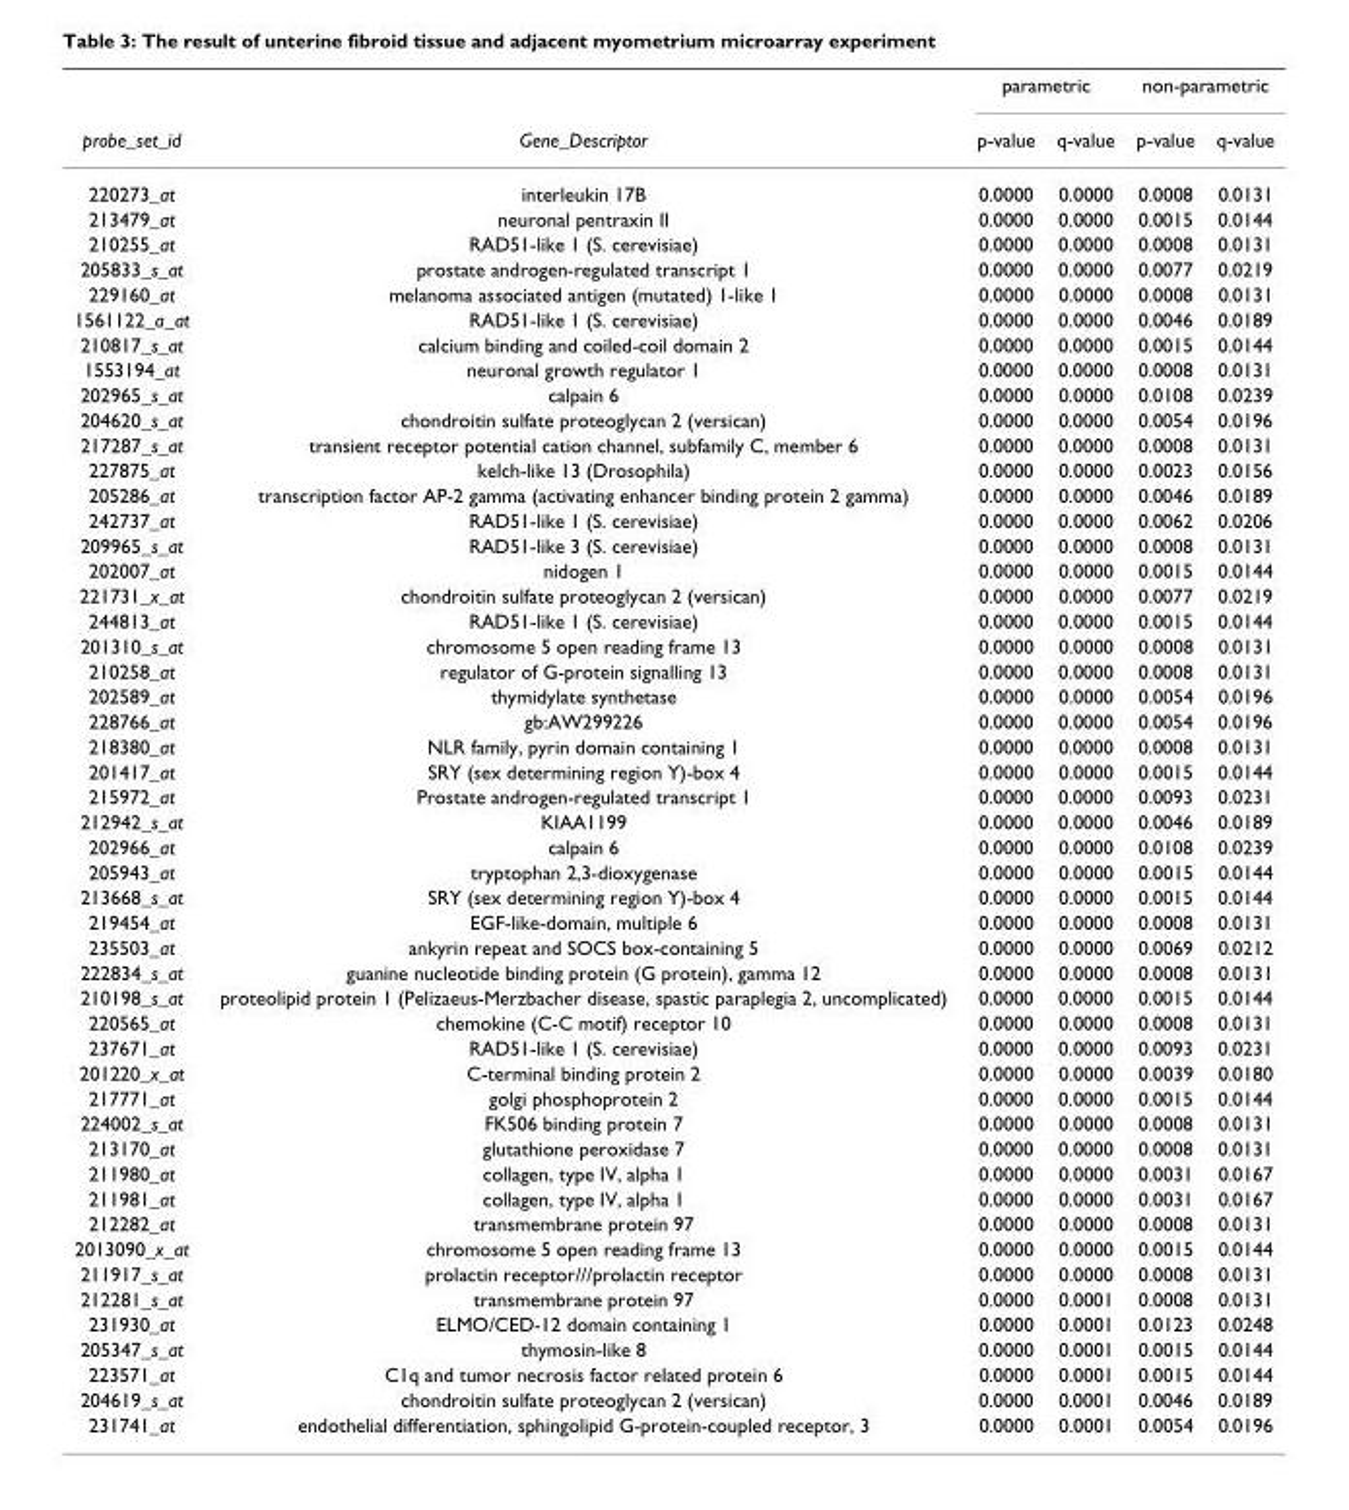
<table><thead><tr><td rowspan="2">probe_set_id</td><td rowspan="2">Gene_Descriptor</td><td colspan="2">parametric</td><td colspan="2">non-parametric</td></tr><tr><td>p-value</td><td>q-value</td><td>p-value</td><td>q-value</td></tr></thead><tbody><tr><td>220273_at</td><td>interleukin 17B</td><td>0.0000</td><td>0.0000</td><td>0.0008</td><td>0.0131</td></tr><tr><td>213479_at</td><td>neuronal pentraxin II</td><td>0.0000</td><td>0.0000</td><td>0.0015</td><td>0.0144</td></tr><tr><td>210255_at</td><td>RAD51-like 1 (S. cerevisiae)</td><td>0.0000</td><td>0.0000</td><td>0.0008</td><td>0.0131</td></tr><tr><td>205833_s_at</td><td>prostate androgen-regulated transcript 1</td><td>0.0000</td><td>0.0000</td><td>0.0077</td><td>0.0219</td></tr><tr><td>229160_at</td><td>melanoma associated antigen (mutated) 1-like 1</td><td>0.0000</td><td>0.0000</td><td>0.0008</td><td>0.0131</td></tr><tr><td>1561122_a_at</td><td>RAD51-like 1 (S. cerevisiae)</td><td>0.0000</td><td>0.0000</td><td>0.0046</td><td>0.0189</td></tr><tr><td>210817_s_at</td><td>calcium binding and coiled-coil domain 2</td><td>0.0000</td><td>0.0000</td><td>0.0015</td><td>0.0144</td></tr><tr><td>1553194_at</td><td>neuronal growth regulator 1</td><td>0.0000</td><td>0.0000</td><td>0.0008</td><td>0.0131</td></tr><tr><td>202965_s_at</td><td>calpain 6</td><td>0.0000</td><td>0.0000</td><td>0.0108</td><td>0.0239</td></tr><tr><td>204620_s_at</td><td>chondroitin sulfate proteoglycan 2 (versican)</td><td>0.0000</td><td>0.0000</td><td>0.0054</td><td>0.0196</td></tr><tr><td>217287_s_at</td><td>transient receptor potential cation channel, subfamily C, member 6</td><td>0.0000</td><td>0.0000</td><td>0.0008</td><td>0.0131</td></tr><tr><td>227875_at</td><td>kelch-like 13 (Drosophila)</td><td>0.0000</td><td>0.0000</td><td>0.0023</td><td>0.0156</td></tr><tr><td>205286_at</td><td>transcription factor AP-2 gamma (activating enhancer binding protein 2 gamma)</td><td>0.0000</td><td>0.0000</td><td>0.0046</td><td>0.0189</td></tr><tr><td>242737_at</td><td>RAD51-like 1 (S. cerevisiae)</td><td>0.0000</td><td>0.0000</td><td>0.0062</td><td>0.0206</td></tr><tr><td>209965_s_at</td><td>RAD51-like 3 (S. cerevisiae)</td><td>0.0000</td><td>0.0000</td><td>0.0008</td><td>0.0131</td></tr><tr><td>202007_at</td><td>nidogen 1</td><td>0.0000</td><td>0.0000</td><td>0.0015</td><td>0.0144</td></tr><tr><td>221731_x_at</td><td>chondroitin sulfate proteoglycan 2 (versican)</td><td>0.0000</td><td>0.0000</td><td>0.0077</td><td>0.0219</td></tr><tr><td>244813_at</td><td>RAD51-like 1 (S. cerevisiae)</td><td>0.0000</td><td>0.0000</td><td>0.0015</td><td>0.0144</td></tr><tr><td>201310_s_at</td><td>chromosome 5 open reading frame 13</td><td>0.0000</td><td>0.0000</td><td>0.0008</td><td>0.0131</td></tr><tr><td>210258_at</td><td>regulator of G-protein signalling 13</td><td>0.0000</td><td>0.0000</td><td>0.0008</td><td>0.0131</td></tr><tr><td>202589_at</td><td>thymidylate synthetase</td><td>0.0000</td><td>0.0000</td><td>0.0054</td><td>0.0196</td></tr><tr><td>228766_at</td><td>gb:AW299226</td><td>0.0000</td><td>0.0000</td><td>0.0054</td><td>0.0196</td></tr><tr><td>218380_at</td><td>NLR family, pyrin domain containing 1</td><td>0.0000</td><td>0.0000</td><td>0.0008</td><td>0.0131</td></tr><tr><td>201417_at</td><td>SRY (sex determining region Y)-box 4</td><td>0.0000</td><td>0.0000</td><td>0.0015</td><td>0.0144</td></tr><tr><td>215972_at</td><td>Prostate androgen-regulated transcript 1</td><td>0.0000</td><td>0.0000</td><td>0.0093</td><td>0.0231</td></tr><tr><td>212942_s_at</td><td>KIAA1199</td><td>0.0000</td><td>0.0000</td><td>0.0046</td><td>0.0189</td></tr><tr><td>202966_at</td><td>calpain 6</td><td>0.0000</td><td>0.0000</td><td>0.0108</td><td>0.0239</td></tr><tr><td>205943_at</td><td>tryptophan 2,3-dioxygenase</td><td>0.0000</td><td>0.0000</td><td>0.0015</td><td>0.0144</td></tr><tr><td>213668_s_at</td><td>SRY (sex determining region Y)-box 4</td><td>0.0000</td><td>0.0000</td><td>0.0015</td><td>0.0144</td></tr><tr><td>219454_at</td><td>EGF-like-domain, multiple 6</td><td>0.0000</td><td>0.0000</td><td>0.0008</td><td>0.0131</td></tr><tr><td>235503_at</td><td>ankyrin repeat and SOCS box-containing 5</td><td>0.0000</td><td>0.0000</td><td>0.0069</td><td>0.0212</td></tr><tr><td>222834_s_at</td><td>guanine nucleotide binding protein (G protein), gamma 12</td><td>0.0000</td><td>0.0000</td><td>0.0008</td><td>0.0131</td></tr><tr><td>210198_s_at</td><td>proteolipid protein 1 (Pelizaeus-Merzbacher disease, spastic paraplegia 2, uncomplicated)</td><td>0.0000</td><td>0.0000</td><td>0.0015</td><td>0.0144</td></tr><tr><td>220565_at</td><td>chemokine (C-C motif) receptor 10</td><td>0.0000</td><td>0.0000</td><td>0.0008</td><td>0.0131</td></tr><tr><td>237671_at</td><td>RAD51-like 1 (S. cerevisiae)</td><td>0.0000</td><td>0.0000</td><td>0.0093</td><td>0.0231</td></tr><tr><td>201220_x_at</td><td>C-terminal binding protein 2</td><td>0.0000</td><td>0.0000</td><td>0.0039</td><td>0.0180</td></tr><tr><td>217771_at</td><td>golgi phosphoprotein 2</td><td>0.0000</td><td>0.0000</td><td>0.0015</td><td>0.0144</td></tr><tr><td>224002_s_at</td><td>FK506 binding protein 7</td><td>0.0000</td><td>0.0000</td><td>0.0008</td><td>0.0131</td></tr><tr><td>213170_at</td><td>glutathione peroxidase 7</td><td>0.0000</td><td>0.0000</td><td>0.0008</td><td>0.0131</td></tr><tr><td>211980_at</td><td>collagen, type IV, alpha 1</td><td>0.0000</td><td>0.0000</td><td>0.0031</td><td>0.0167</td></tr><tr><td>211981_at</td><td>collagen, type IV, alpha 1</td><td>0.0000</td><td>0.0000</td><td>0.0031</td><td>0.0167</td></tr><tr><td>212282_at</td><td>transmembrane protein 97</td><td>0.0000</td><td>0.0000</td><td>0.0008</td><td>0.0131</td></tr><tr><td>2013090_x_at</td><td>chromosome 5 open reading frame 13</td><td>0.0000</td><td>0.0000</td><td>0.0015</td><td>0.0144</td></tr><tr><td>211917_s_at</td><td>prolactin receptor///prolactin receptor</td><td>0.0000</td><td>0.0000</td><td>0.0008</td><td>0.0131</td></tr><tr><td>212281_s_at</td><td>transmembrane protein 97</td><td>0.0000</td><td>0.0001</td><td>0.0008</td><td>0.0131</td></tr><tr><td>231930_at</td><td>ELMO/CED-12 domain containing 1</td><td>0.0000</td><td>0.0001</td><td>0.0123</td><td>0.0248</td></tr><tr><td>205347_s_at</td><td>thymosin-like 8</td><td>0.0000</td><td>0.0001</td><td>0.0015</td><td>0.0144</td></tr><tr><td>223571_at</td><td>C1q and tumor necrosis factor related protein 6</td><td>0.0000</td><td>0.0001</td><td>0.0015</td><td>0.0144</td></tr><tr><td>204619_s_at</td><td>chondroitin sulfate proteoglycan 2 (versican)</td><td>0.0000</td><td>0.0001</td><td>0.0046</td><td>0.0189</td></tr><tr><td>231741_at</td><td>endothelial differentiation, sphingolipid G-protein-coupled receptor, 3</td><td>0.0000</td><td>0.0001</td><td>0.0054</td><td>0.0196</td></tr></tbody></table>